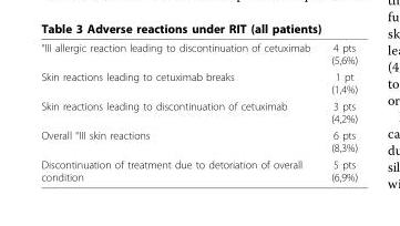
<table><tbody><tr><td>°III allergic reaction leading to discontinuation of cetuximab</td><td>4 pts (5,6%)</td></tr><tr><td>Skin reactions leading to cetuximab breaks</td><td>1 pt (1,4%)</td></tr><tr><td>Skin reactions leading to discontinuation of cetuximab</td><td>3 pts (4,2%)</td></tr><tr><td>Overall °III skin reactions</td><td>6 pts (8,3%)</td></tr><tr><td>Discontinuation of treatment due to detoriation of overall condition</td><td>5 pts (6,9%)</td></tr></tbody></table>